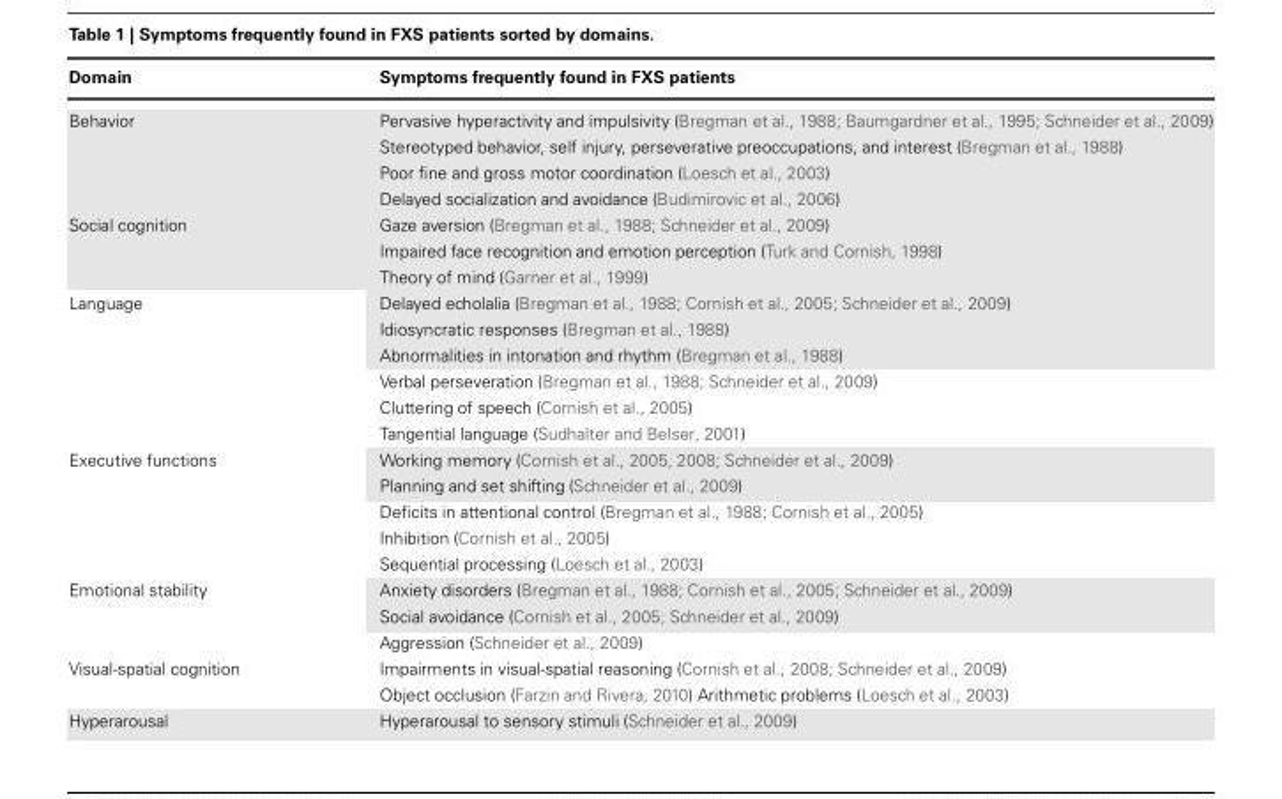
<table><thead><tr><td>Domain</td><td>Symptoms frequently found in FXS patients</td></tr></thead><tbody><tr><td rowspan="4">Behavior</td><td>Pervasive hyperactivity and impulsivity (Bregman et al., 1988; Baumgardner et al., 1995; Schneider et al., 2009)</td></tr><tr><td>Stereotyped behavior, self injury, perseverative preoccupations, and interest (Bregman et al., 1988)</td></tr><tr><td>Poor fine and gross motor coordination (Loesch et al., 2003)</td></tr><tr><td>Delayed socialization and avoidance (Budimirovic et al., 2006)</td></tr><tr><td rowspan="3">Social cognition</td><td>Gaze aversion (Bregman et al., 1988; Schneider et al., 2009)</td></tr><tr><td>Impaired face recognition and emotion perception (Turk and Cornish, 1998)</td></tr><tr><td>Theory of mind (Garner et al., 1999)</td></tr><tr><td rowspan="6">Language</td><td>Delayed echolalia (Bregman et al., 1988; Cornish et al., 2005; Schneider et al., 2009)</td></tr><tr><td>Idiosyncratic responses (Bregman et al., 1988)</td></tr><tr><td>Abnormalities in intonation and rhythm (Bregman et al., 1988)</td></tr><tr><td>Verbal perseveration (Bregman et al., 1988; Schneider et al., 2009)</td></tr><tr><td>Cluttering of speech (Cornish et al., 2005)</td></tr><tr><td>Tangential language (Sudhalter and Belser, 2001)</td></tr><tr><td rowspan="5">Executive functions</td><td>Working memory (Cornish et al., 2005, 2008; Schneider et al., 2009)</td></tr><tr><td>Planning and set shifting (Schneider et al., 2009)</td></tr><tr><td>Deficits in attentional control (Bregman et al., 1988; Cornish et al., 2005)</td></tr><tr><td>Inhibition (Cornish et al., 2005)</td></tr><tr><td>Sequential processing (Loesch et al., 2003)</td></tr><tr><td rowspan="3">Emotional stability</td><td>Anxiety disorders (Bregman et al., 1988; Cornish et al., 2005; Schneider et al., 2009)</td></tr><tr><td>Social avoidance (Cornish et al., 2005; Schneider et al., 2009)</td></tr><tr><td>Aggression (Schneider et al., 2009)</td></tr><tr><td rowspan="2">Visual-spatial cognition</td><td>Impairments in visual-spatial reasoning (Cornish et al., 2008; Schneider et al., 2009)</td></tr><tr><td>Object occlusion (Farzin and Rivera, 2010) Arithmetic problems (Loesch et al., 2003)</td></tr><tr><td>Hyperarousal</td><td>Hyperarousal to sensory stimuli (Schneider et al., 2009)</td></tr></tbody></table>